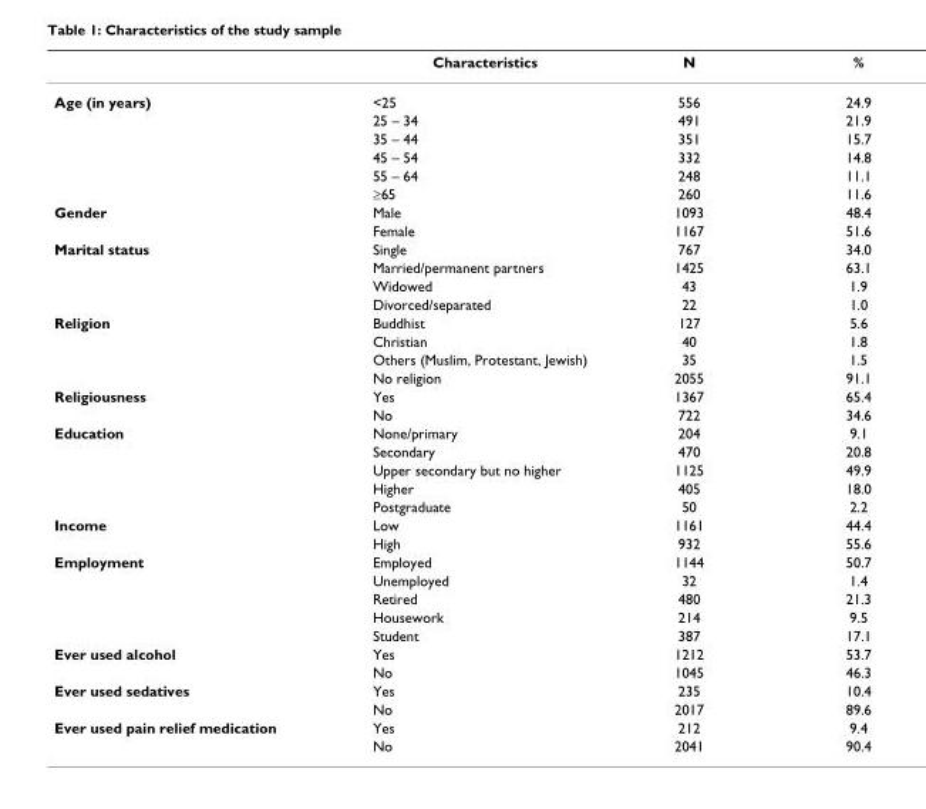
<table><thead><tr><td></td><td>Characteristics</td><td>N</td><td>%</td></tr></thead><tbody><tr><td rowspan="6">Age (in years)</td><td>&lt;25</td><td>556</td><td>24.9</td></tr><tr><td>25 – 34</td><td>491</td><td>21.9</td></tr><tr><td>35 – 44</td><td>351</td><td>15.7</td></tr><tr><td>45 – 54</td><td>332</td><td>14.8</td></tr><tr><td>55 – 64</td><td>248</td><td>11.1</td></tr><tr><td>≥65</td><td>260</td><td>11.6</td></tr><tr><td rowspan="2">Gender</td><td>Male</td><td>1093</td><td>48.4</td></tr><tr><td>Female</td><td>1167</td><td>51.6</td></tr><tr><td rowspan="4">Marital status</td><td>Single</td><td>767</td><td>34.0</td></tr><tr><td>Married/permanent partners</td><td>1425</td><td>63.1</td></tr><tr><td>Widowed</td><td>43</td><td>1.9</td></tr><tr><td>Divorced/separated</td><td>22</td><td>1.0</td></tr><tr><td rowspan="4">Religion</td><td>Buddhist</td><td>127</td><td>5.6</td></tr><tr><td>Christian</td><td>40</td><td>1.8</td></tr><tr><td>Others (Muslim, Protestant, Jewish)</td><td>35</td><td>1.5</td></tr><tr><td>No religion</td><td>2055</td><td>91.1</td></tr><tr><td rowspan="2">Religiousness</td><td>Yes</td><td>1367</td><td>65.4</td></tr><tr><td>No</td><td>722</td><td>34.6</td></tr><tr><td rowspan="5">Education</td><td>None/primary</td><td>204</td><td>9.1</td></tr><tr><td>Secondary</td><td>470</td><td>20.8</td></tr><tr><td>Upper secondary but no higher</td><td>1125</td><td>49.9</td></tr><tr><td>Higher</td><td>405</td><td>18.0</td></tr><tr><td>Postgraduate</td><td>50</td><td>2.2</td></tr><tr><td rowspan="2">Income</td><td>Low</td><td>1161</td><td>44.4</td></tr><tr><td>High</td><td>932</td><td>55.6</td></tr><tr><td rowspan="5">Employment</td><td>Employed</td><td>1144</td><td>50.7</td></tr><tr><td>Unemployed</td><td>32</td><td>1.4</td></tr><tr><td>Retired</td><td>480</td><td>21.3</td></tr><tr><td>Housework</td><td>214</td><td>9.5</td></tr><tr><td>Student</td><td>387</td><td>17.1</td></tr><tr><td rowspan="2">Ever used alcohol</td><td>Yes</td><td>1212</td><td>53.7</td></tr><tr><td>No</td><td>1045</td><td>46.3</td></tr><tr><td rowspan="2">Ever used sedatives</td><td>Yes</td><td>235</td><td>10.4</td></tr><tr><td>No</td><td>2017</td><td>89.6</td></tr><tr><td rowspan="2">Ever used pain relief medication</td><td>Yes</td><td>212</td><td>9.4</td></tr><tr><td>No</td><td>2041</td><td>90.4</td></tr></tbody></table>